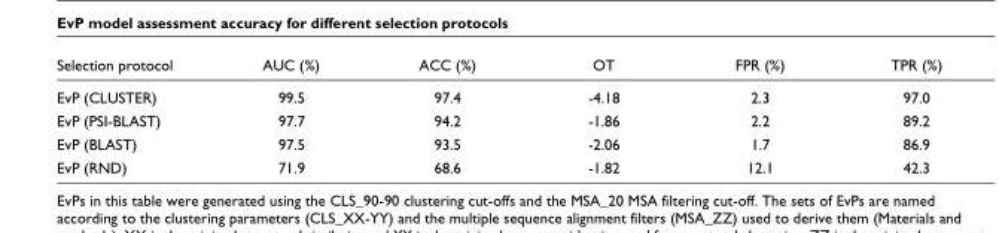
<table><thead><tr><td>Selection protocol</td><td>AUC (%)</td><td>ACC (%)</td><td>OT</td><td>FPR (%)</td><td>TPR (%)</td></tr></thead><tbody><tr><td>EvP (CLUSTER)</td><td>99.5</td><td>97.4</td><td>-4.18</td><td>2.3</td><td>97.0</td></tr><tr><td>EvP (PSI-BLAST)</td><td>97.7</td><td>94.2</td><td>-1.86</td><td>2.2</td><td>89.2</td></tr><tr><td>EvP (BLAST)</td><td>97.5</td><td>93.5</td><td>-2.06</td><td>1.7</td><td>86.9</td></tr><tr><td>EvP (RND)</td><td>71.9</td><td>68.6</td><td>-1.82</td><td>12.1</td><td>42.3</td></tr></tbody></table>